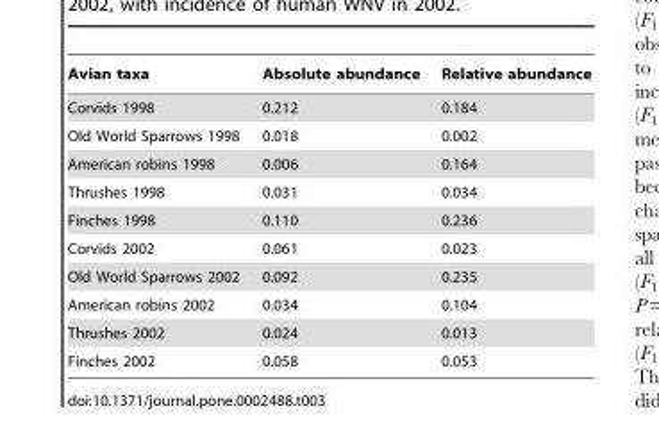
<table><thead><tr><td>Avian taxa</td><td>Absolute abundance</td><td>Relative abundance</td></tr></thead><tbody><tr><td>Corvids 1998</td><td>0.212</td><td>0.184</td></tr><tr><td>Old World Sparrows 1998</td><td>0.018</td><td>0.002</td></tr><tr><td>American robins 1998</td><td>0.006</td><td>0.164</td></tr><tr><td>Thrushes 1998</td><td>0.031</td><td>0.034</td></tr><tr><td>Finches 1998</td><td>0.110</td><td>0.236</td></tr><tr><td>Corvids 2002</td><td>0.061</td><td>0.023</td></tr><tr><td>Old World Sparrows 2002</td><td>0.092</td><td>0.235</td></tr><tr><td>American robins 2002</td><td>0.034</td><td>0.104</td></tr><tr><td>Thrushes 2002</td><td>0.024</td><td>0.013</td></tr><tr><td>Finches 2002</td><td>0.058</td><td>0.053</td></tr></tbody></table>